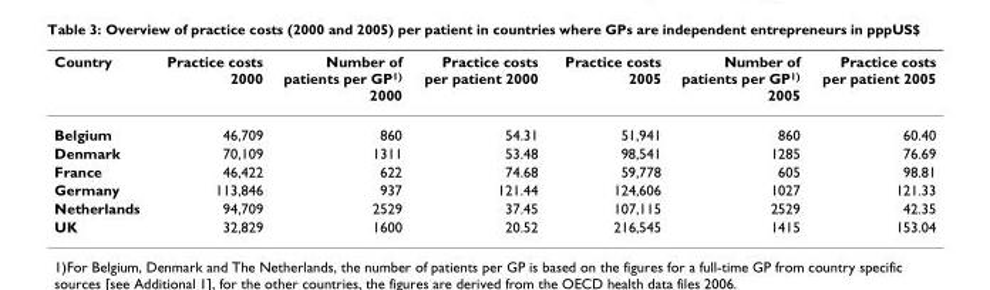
<table><thead><tr><td>Country</td><td>Practice costs 2000</td><td>Number of patients per GP<sup>1)</sup> 2000</td><td>Practice costs per patient 2000</td><td>Practice costs 2005</td><td>Number of patients per GP<sup>1)</sup> 2005</td><td>Practice costs per patient 2005</td></tr></thead><tbody><tr><td>Belgium</td><td>46,709</td><td>860</td><td>54.31</td><td>51,941</td><td>860</td><td>60.40</td></tr><tr><td>Denmark</td><td>70,109</td><td>1311</td><td>53.48</td><td>98,541</td><td>1285</td><td>76.69</td></tr><tr><td>France</td><td>46,422</td><td>622</td><td>74.68</td><td>59,778</td><td>605</td><td>98.81</td></tr><tr><td>Germany</td><td>113,846</td><td>937</td><td>121.44</td><td>124,606</td><td>1027</td><td>121.33</td></tr><tr><td>Netherlands</td><td>94,709</td><td>2529</td><td>37.45</td><td>107,115</td><td>2529</td><td>42.35</td></tr><tr><td>UK</td><td>32,829</td><td>1600</td><td>20.52</td><td>216,545</td><td>1415</td><td>153.04</td></tr></tbody></table>